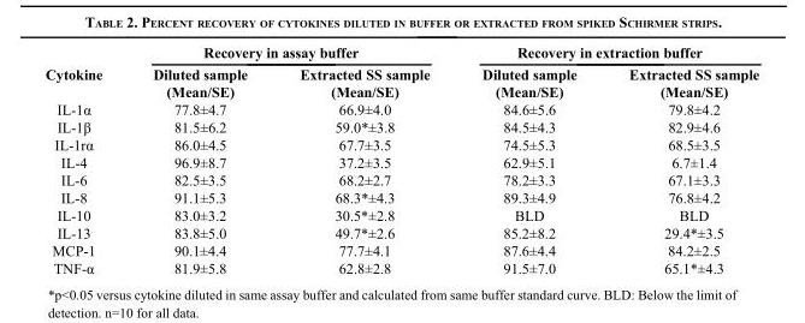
<table><thead><tr><td rowspan="2">Cytokine</td><td colspan="2">Recovery in assay buffer</td><td colspan="2">Recovery in extraction buffer</td></tr><tr><td>Diluted sample (Mean/SE)</td><td>Extracted SS sample (Mean/SE)</td><td>Diluted sample (Mean/SE)</td><td>Extracted SS sample (Mean/SE)</td></tr></thead><tbody><tr><td>IL-1α</td><td>77.8±4.7</td><td>66.9±4.0</td><td>84.6±5.6</td><td>79.8±4.2</td></tr><tr><td>IL-1β</td><td>81.5±6.2</td><td>59.0*±3.8</td><td>84.5±4.3</td><td>82.9±4.6</td></tr><tr><td>IL-1rα</td><td>86.0±4.5</td><td>67.7±3.5</td><td>74.5±5.3</td><td>68.5±3.5</td></tr><tr><td>IL-4</td><td>96.9±8.7</td><td>37.2±3.5</td><td>62.9±5.1</td><td>6.7±1.4</td></tr><tr><td>IL-6</td><td>82.5±3.5</td><td>68.2±2.7</td><td>78.2±3.3</td><td>67.1±3.3</td></tr><tr><td>IL-8</td><td>91.1±5.3</td><td>68.3*±4.3</td><td>89.3±4.9</td><td>76.8±4.2</td></tr><tr><td>IL-10</td><td>83.0±3.2</td><td>30.5*±2.8</td><td>BLD</td><td>BLD</td></tr><tr><td>IL-13</td><td>83.8±5.0</td><td>49.7*±2.6</td><td>85.2±8.2</td><td>29.4*±3.5</td></tr><tr><td>MCP-1</td><td>90.1±4.4</td><td>77.7±4.1</td><td>87.6±4.4</td><td>84.2±2.5</td></tr><tr><td>TNF-α</td><td>81.9±5.8</td><td>62.8±2.8</td><td>91.5±7.0</td><td>65.1*±4.3</td></tr></tbody></table>